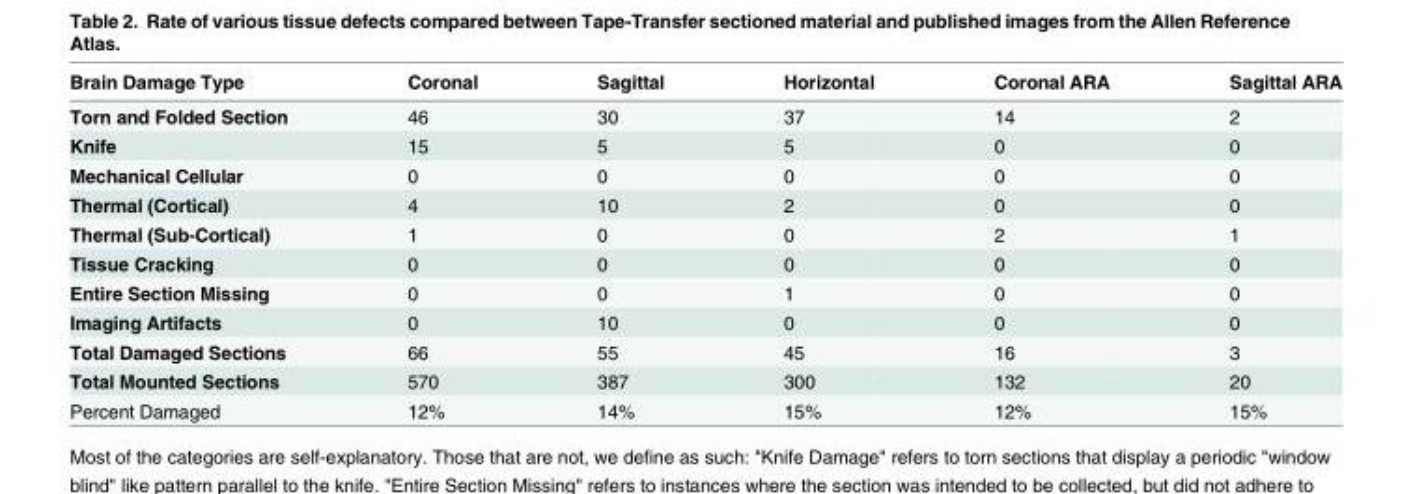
<table><thead><tr><td>Brain Damage Type</td><td>Coronal</td><td>Sagittal</td><td>Horizontal</td><td>Coronal ARA</td><td>Sagittal ARA</td></tr></thead><tbody><tr><td>Torn and Folded Section</td><td>46</td><td>30</td><td>37</td><td>14</td><td>2</td></tr><tr><td>Knife</td><td>15</td><td>5</td><td>5</td><td>0</td><td>0</td></tr><tr><td>Mechanical Cellular</td><td>0</td><td>0</td><td>0</td><td>0</td><td>0</td></tr><tr><td>Thermal (Cortical)</td><td>4</td><td>10</td><td>2</td><td>0</td><td>0</td></tr><tr><td>Thermal (Sub-Cortical)</td><td>1</td><td>0</td><td>0</td><td>2</td><td>1</td></tr><tr><td>Tissue Cracking</td><td>0</td><td>0</td><td>0</td><td>0</td><td>0</td></tr><tr><td>Entire Section Missing</td><td>0</td><td>0</td><td>1</td><td>0</td><td>0</td></tr><tr><td>Imaging Artifacts</td><td>0</td><td>10</td><td>0</td><td>0</td><td>0</td></tr><tr><td>Total Damaged Sections</td><td>66</td><td>55</td><td>45</td><td>16</td><td>3</td></tr><tr><td>Total Mounted Sections</td><td>570</td><td>387</td><td>300</td><td>132</td><td>20</td></tr><tr><td>Percent Damaged</td><td>12%</td><td>14%</td><td>15%</td><td>12%</td><td>15%</td></tr></tbody></table>